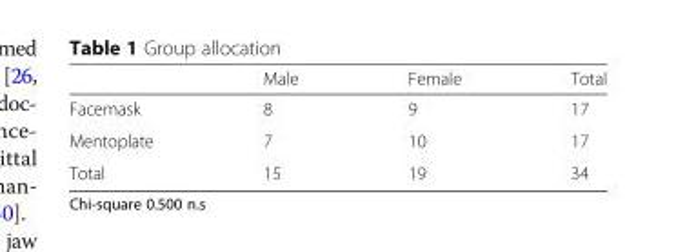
<table><thead><tr><td></td><td>Male</td><td>Female</td><td>Total</td></tr></thead><tbody><tr><td>Facemask</td><td>8</td><td>9</td><td>17</td></tr><tr><td>Mentoplate</td><td>7</td><td>10</td><td>17</td></tr><tr><td>Total</td><td>15</td><td>19</td><td>34</td></tr></tbody></table>